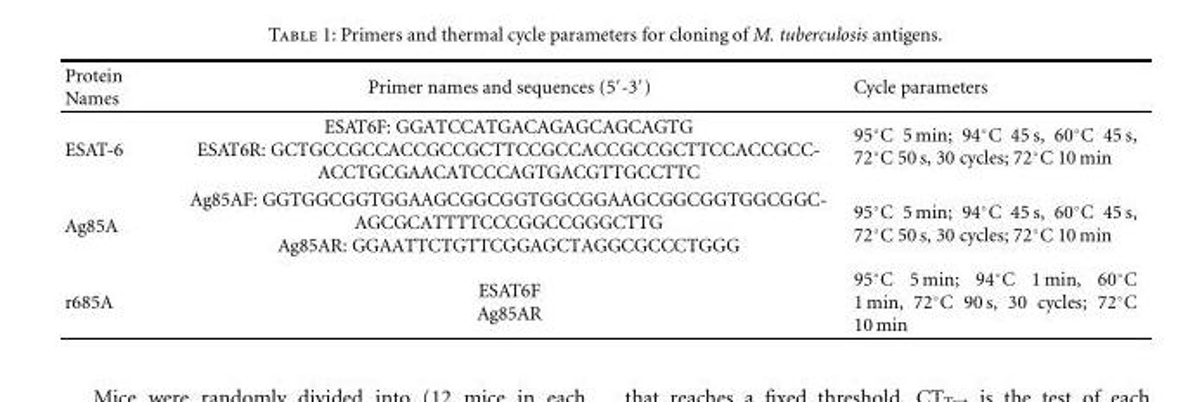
<table><thead><tr><td>Protein Names</td><td>Primer names and sequences (5′-3′)</td><td>Cycle parameters</td></tr></thead><tbody><tr><td>ESAT-6</td><td>ESAT6F: GGATCCATGACAGAGCAGCAGTG ESAT6R: GCTGCCGCCACCGCCGCTTCCGCCACCGCCGCTTCCACCGCC- ACCTGCGAACATCCCAGTGACGTTGCCTTC</td><td>95◦C 5 min; 94◦C 45 s, 60◦C 45 s, 72◦C 50 s, 30 cycles; 72◦C 10 min</td></tr><tr><td>Ag85A</td><td>Ag85AF: GGTGGCGGTGGAAGCGGCGGTGGCGGAAGCGGCGGTGGCGGC- AGCGCATTTTCCCGGCCGGGCTTG Ag85AR: GGAATTCTGTTCGGAGCTAGGCGCCCTGGG</td><td>95◦C 5 min; 94◦C 45 s, 60◦C 45 s, 72◦C 50 s, 30 cycles; 72◦C 10 min</td></tr><tr><td>r685A</td><td>ESAT6F Ag85AR</td><td>95◦C 5 min; 94◦C 1 min, 60◦C 1 min, 72◦C 90 s, 30 cycles; 72◦C 10 min</td></tr></tbody></table>